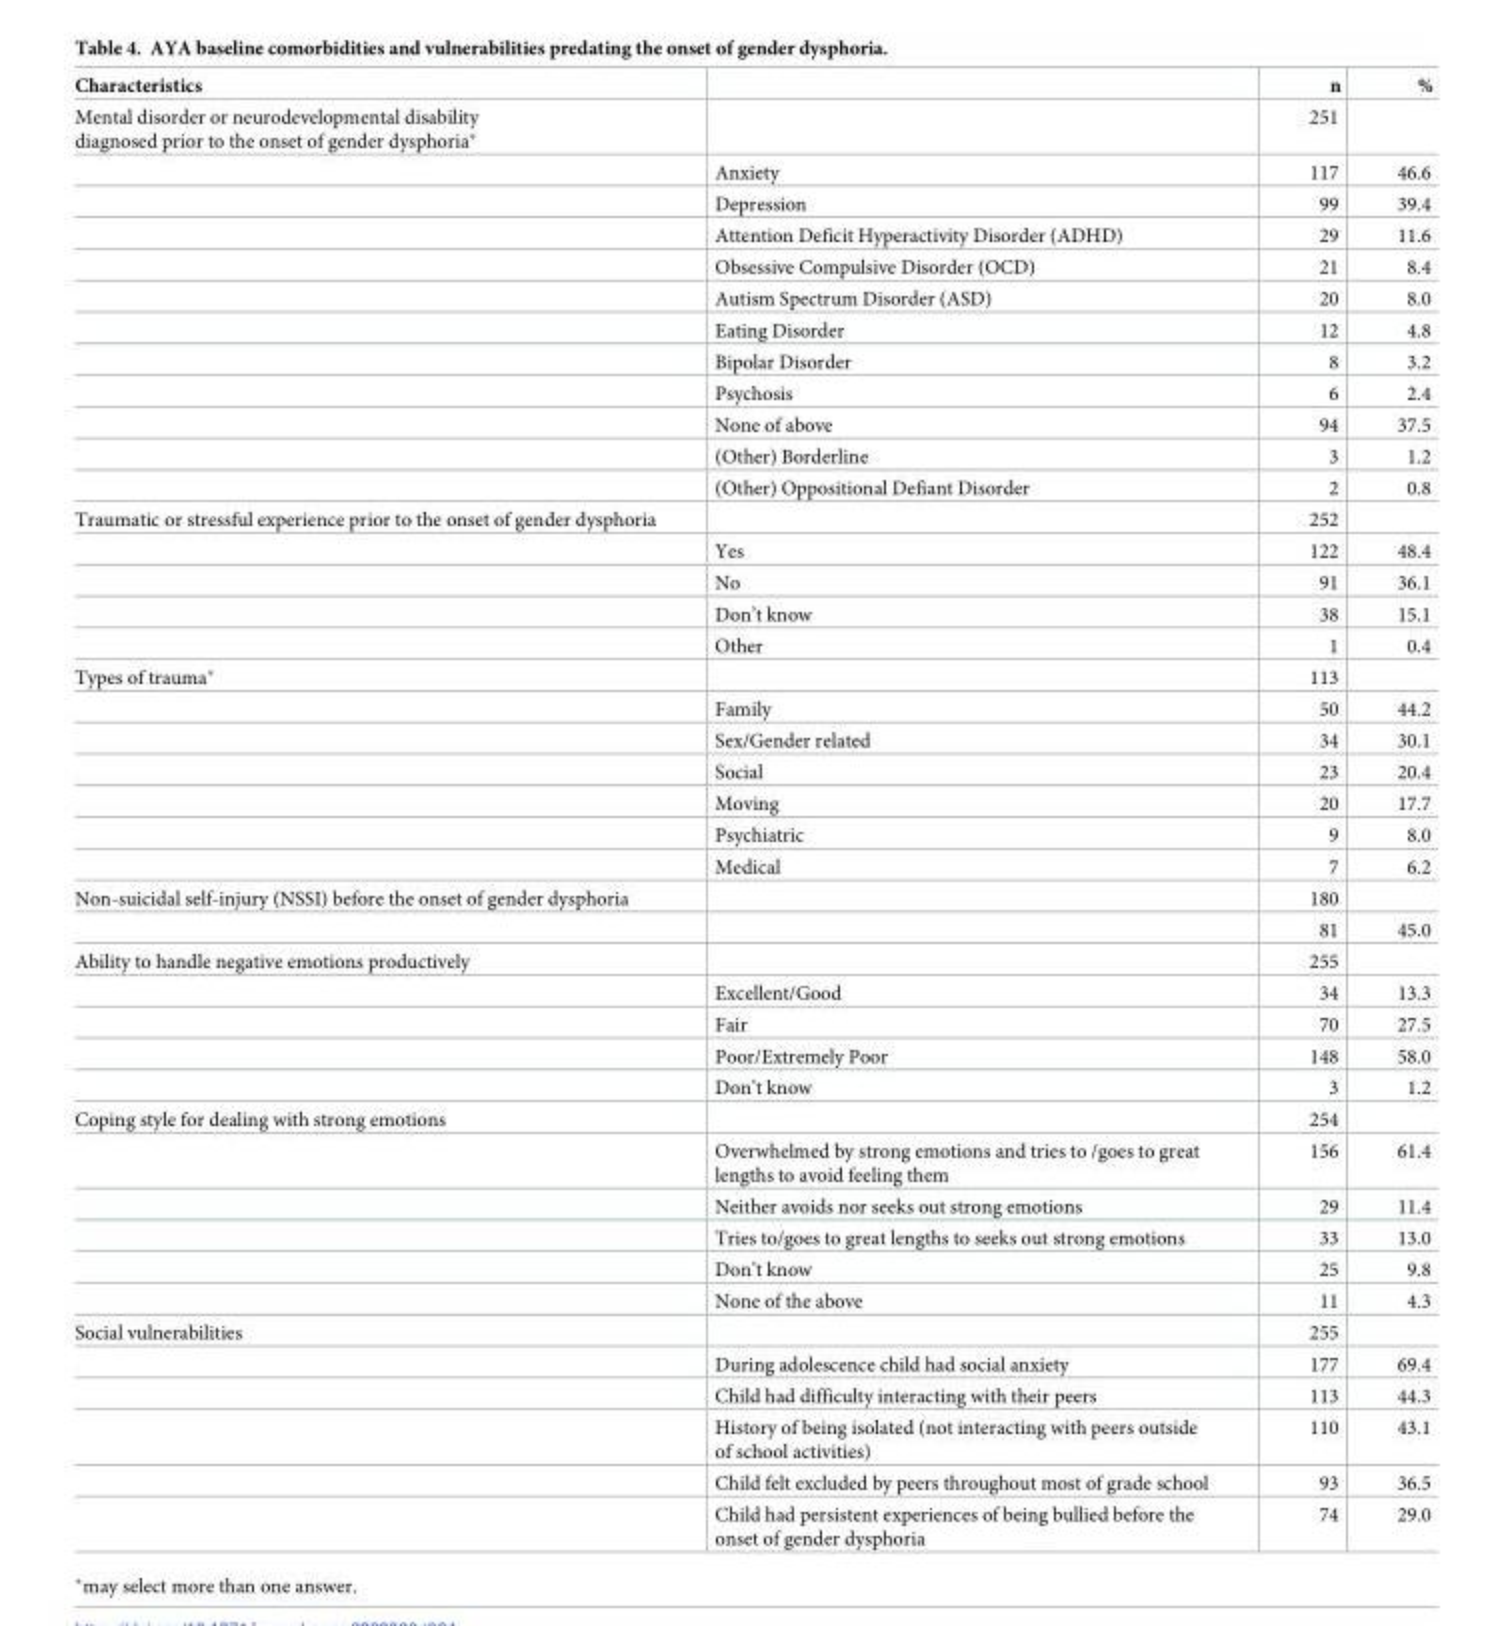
<table><thead><tr><td>Characteristics</td><td></td><td>n</td><td>%</td></tr></thead><tbody><tr><td rowspan="12">Mental disorder or neurodevelopmental disability diagnosed prior to the onset of gender dysphoria*</td><td></td><td>251</td><td></td></tr><tr><td>Anxiety</td><td>117</td><td>46.6</td></tr><tr><td>Depression</td><td>99</td><td>39.4</td></tr><tr><td>Attention Deficit Hyperactivity Disorder (ADHD)</td><td>29</td><td>11.6</td></tr><tr><td>Obsessive Compulsive Disorder (OCD)</td><td>21</td><td>8.4</td></tr><tr><td>Autism Spectrum Disorder (ASD)</td><td>20</td><td>8.0</td></tr><tr><td>Eating Disorder</td><td>12</td><td>4.8</td></tr><tr><td>Bipolar Disorder</td><td>8</td><td>3.2</td></tr><tr><td>Psychosis</td><td>6</td><td>2.4</td></tr><tr><td>None of above</td><td>94</td><td>37.5</td></tr><tr><td>(Other) Borderline</td><td>3</td><td>1.2</td></tr><tr><td>(Other) Oppositional Defiant Disorder</td><td>2</td><td>0.8</td></tr><tr><td rowspan="5">Traumatic or stressful experience prior to the onset of gender dysphoria</td><td></td><td>252</td><td></td></tr><tr><td>Yes</td><td>122</td><td>48.4</td></tr><tr><td>No</td><td>91</td><td>36.1</td></tr><tr><td>Don’t know</td><td>38</td><td>15.1</td></tr><tr><td>Other</td><td>1</td><td>0.4</td></tr><tr><td rowspan="7">Types of trauma*</td><td></td><td>113</td><td></td></tr><tr><td>Family</td><td>50</td><td>44.2</td></tr><tr><td>Sex/Gender related</td><td>34</td><td>30.1</td></tr><tr><td>Social</td><td>23</td><td>20.4</td></tr><tr><td>Moving</td><td>20</td><td>17.7</td></tr><tr><td>Psychiatric</td><td>9</td><td>8.0</td></tr><tr><td>Medical</td><td>7</td><td>6.2</td></tr><tr><td rowspan="2">Non-suicidal self-injury (NSSI) before the onset of gender dysphoria</td><td></td><td>180</td><td></td></tr><tr><td></td><td>81</td><td>45.0</td></tr><tr><td rowspan="5">Ability to handle negative emotions productively</td><td></td><td>255</td><td></td></tr><tr><td>Excellent/Good</td><td>34</td><td>13.3</td></tr><tr><td>Fair</td><td>70</td><td>27.5</td></tr><tr><td>Poor/Extremely Poor</td><td>148</td><td>58.0</td></tr><tr><td>Don’t know</td><td>3</td><td>1.2</td></tr><tr><td rowspan="6">Coping style for dealing with strong emotions</td><td></td><td>254</td><td></td></tr><tr><td>Overwhelmed by strong emotions and tries to /goes to great lengths to avoid feeling them</td><td>156</td><td>61.4</td></tr><tr><td>Neither avoids nor seeks out strong emotions</td><td>29</td><td>11.4</td></tr><tr><td>Tries to/goes to great lengths to seeks out strong emotions</td><td>33</td><td>13.0</td></tr><tr><td>Don’t know</td><td>25</td><td>9.8</td></tr><tr><td>None of the above</td><td>11</td><td>4.3</td></tr><tr><td rowspan="6">Social vulnerabilities</td><td></td><td>255</td><td></td></tr><tr><td>During adolescence child had social anxiety</td><td>177</td><td>69.4</td></tr><tr><td>Child had difficulty interacting with their peers</td><td>113</td><td>44.3</td></tr><tr><td>History of being isolated (not interacting with peers outside of school activities)</td><td>110</td><td>43.1</td></tr><tr><td>Child felt excluded by peers throughout most of grade school</td><td>93</td><td>36.5</td></tr><tr><td>Child had persistent experiences of being bullied before the onset of gender dysphoria</td><td>74</td><td>29.0</td></tr></tbody></table>